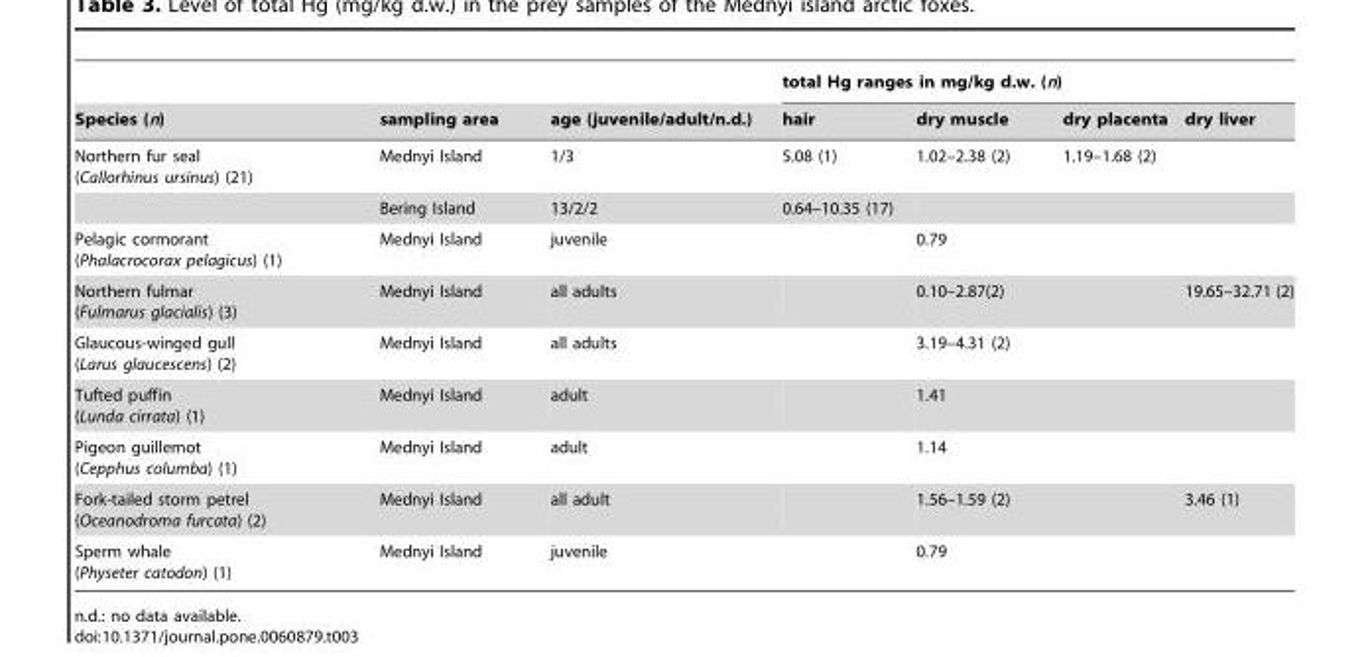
<table><thead><tr><td rowspan="2">Species (n)</td><td rowspan="2">sampling area</td><td rowspan="2">age (juvenile/adult/n.d.)</td><td colspan="4">total Hg ranges in mg/kg d.w. (n)</td></tr><tr><td>hair</td><td>dry muscle</td><td>dry placenta</td><td>dry liver</td></tr></thead><tbody><tr><td rowspan="2">Northern fur seal (Callorhinus ursinus) (21)</td><td>Mednyi Island</td><td>1/3</td><td>5.08 (1)</td><td>1.02–2.38 (2)</td><td>1.19–1.68 (2)</td><td></td></tr><tr><td>Bering Island</td><td>13/2/2</td><td>0.64–10.35 (17)</td><td></td><td></td><td></td></tr><tr><td>Pelagic cormorant (Phalacrocorax pelagicus) (1)</td><td>Mednyi Island</td><td>juvenile</td><td></td><td>0.79</td><td></td><td></td></tr><tr><td>Northern fulmar (Fulmarus glacialis) (3)</td><td>Mednyi Island</td><td>all adults</td><td></td><td>0.10–2.87(2)</td><td></td><td>19.65–32.71 (2)</td></tr><tr><td>Glaucous-winged gull (Larus glaucescens) (2)</td><td>Mednyi Island</td><td>all adults</td><td></td><td>3.19–4.31 (2)</td><td></td><td></td></tr><tr><td>Tufted puffin (Lunda cirrata) (1)</td><td>Mednyi Island</td><td>adult</td><td></td><td>1.41</td><td></td><td></td></tr><tr><td>Pigeon guillemot (Cepphus columba) (1)</td><td>Mednyi Island</td><td>adult</td><td></td><td>1.14</td><td></td><td></td></tr><tr><td>Fork-tailed storm petrel (Oceanodroma furcata) (2)</td><td>Mednyi Island</td><td>all adult</td><td></td><td>1.56–1.59 (2)</td><td></td><td>3.46 (1)</td></tr><tr><td>Sperm whale (Physeter catodon) (1)</td><td>Mednyi Island</td><td>juvenile</td><td></td><td>0.79</td><td></td><td></td></tr></tbody></table>